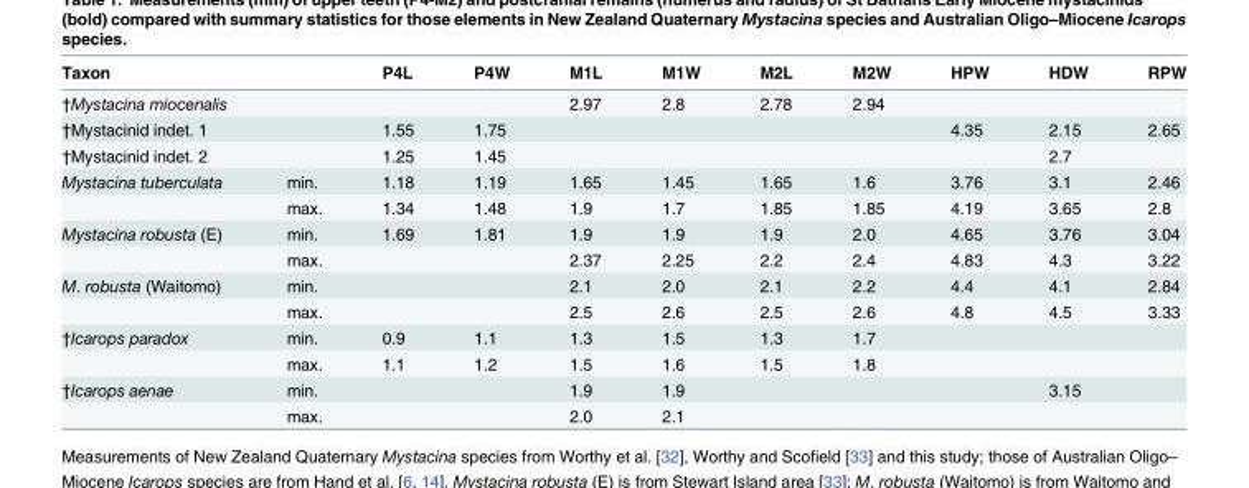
<table><thead><tr><td>Taxon</td><td></td><td>P4L</td><td>P4W</td><td>M1L</td><td>M1W</td><td>M2L</td><td>M2W</td><td>HPW</td><td>HDW</td><td>RPW</td></tr></thead><tbody><tr><td>†Mystacina miocenalis</td><td></td><td></td><td></td><td>2.97</td><td>2.8</td><td>2.78</td><td>2.94</td><td></td><td></td><td></td></tr><tr><td>†Mystacinid indet. 1</td><td></td><td>1.55</td><td>1.75</td><td></td><td></td><td></td><td></td><td>4.35</td><td>2.15</td><td>2.65</td></tr><tr><td>†Mystacinid indet. 2</td><td></td><td>1.25</td><td>1.45</td><td></td><td></td><td></td><td></td><td></td><td>2.7</td><td></td></tr><tr><td rowspan="2">Mystacina tuberculata</td><td>min.</td><td>1.18</td><td>1.19</td><td>1.65</td><td>1.45</td><td>1.65</td><td>1.6</td><td>3.76</td><td>3.1</td><td>2.46</td></tr><tr><td>max.</td><td>1.34</td><td>1.48</td><td>1.9</td><td>1.7</td><td>1.85</td><td>1.85</td><td>4.19</td><td>3.65</td><td>2.8</td></tr><tr><td rowspan="2">Mystacina robusta (E)</td><td>min.</td><td>1.69</td><td>1.81</td><td>1.9</td><td>1.9</td><td>1.9</td><td>2.0</td><td>4.65</td><td>3.76</td><td>3.04</td></tr><tr><td>max.</td><td></td><td></td><td>2.37</td><td>2.25</td><td>2.2</td><td>2.4</td><td>4.83</td><td>4.3</td><td>3.22</td></tr><tr><td rowspan="2">M. robusta (Waitomo)</td><td>min.</td><td></td><td></td><td>2.1</td><td>2.0</td><td>2.1</td><td>2.2</td><td>4.4</td><td>4.1</td><td>2.84</td></tr><tr><td>max.</td><td></td><td></td><td>2.5</td><td>2.6</td><td>2.5</td><td>2.6</td><td>4.8</td><td>4.5</td><td>3.33</td></tr><tr><td rowspan="2">†Icarops paradox</td><td>min.</td><td>0.9</td><td>1.1</td><td>1.3</td><td>1.5</td><td>1.3</td><td>1.7</td><td></td><td></td><td></td></tr><tr><td>max.</td><td>1.1</td><td>1.2</td><td>1.5</td><td>1.6</td><td>1.5</td><td>1.8</td><td></td><td></td><td></td></tr><tr><td rowspan="2">†Icarops aenae</td><td>min.</td><td></td><td></td><td>1.9</td><td>1.9</td><td></td><td></td><td></td><td>3.15</td><td></td></tr><tr><td>max.</td><td></td><td></td><td>2.0</td><td>2.1</td><td></td><td></td><td></td><td></td><td></td></tr></tbody></table>